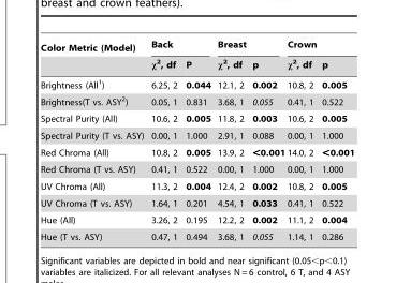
<table><thead><tr><td rowspan="2">Color Metric (Model)</td><td colspan="2">Back</td><td colspan="2">Breast</td><td colspan="2">Crown</td></tr><tr><td>χ<sup>2</sup>, df</td><td>P</td><td>χ<sup>2</sup>, df</td><td>p</td><td>χ<sup>2</sup>, df</td><td>p</td></tr></thead><tbody><tr><td>Brightness (All<sup>1</sup>)</td><td>6.25, 2</td><td>0.044</td><td>12.1, 2</td><td>0.002</td><td>10.8, 2</td><td>0.005</td></tr><tr><td>Brightness(T vs. ASY<sup>2</sup>)</td><td>0.05, 1</td><td>0.831</td><td>3.68, 1</td><td>0.055</td><td>0.41, 1</td><td>0.522</td></tr><tr><td>Spectral Purity (All)</td><td>10.6, 2</td><td>0.005</td><td>11.8, 2</td><td>0.003</td><td>10.6, 2</td><td>0.005</td></tr><tr><td>Spectral Purity (T vs. ASY)</td><td>0.00, 1</td><td>1.000</td><td>2.91, 1</td><td>0.088</td><td>0.00, 1</td><td>1.000</td></tr><tr><td>Red Chroma (All)</td><td>10.8, 2</td><td>0.005</td><td>13.9, 2</td><td>&lt;0.001</td><td>14.0, 2</td><td>&lt;0.001</td></tr><tr><td>Red Chroma (T vs. ASY)</td><td>0.41, 1</td><td>0.522</td><td>0.00, 1</td><td>1.000</td><td>0.00, 1</td><td>1.000</td></tr><tr><td>UV Chroma (All)</td><td>11.3, 2</td><td>0.004</td><td>12.4, 2</td><td>0.002</td><td>10.8, 2</td><td>0.005</td></tr><tr><td>UV Chroma (T vs. ASY)</td><td>1.64, 1</td><td>0.201</td><td>4.54, 1</td><td>0.033</td><td>0.41, 1</td><td>0.522</td></tr><tr><td>Hue (All)</td><td>3.26, 2</td><td>0.195</td><td>12.2, 2</td><td>0.002</td><td>11.1, 2</td><td>0.004</td></tr><tr><td>Hue (T vs. ASY)</td><td>0.47, 1</td><td>0.494</td><td>3.68, 1</td><td>0.055</td><td>1.14, 1</td><td>0.286</td></tr></tbody></table>